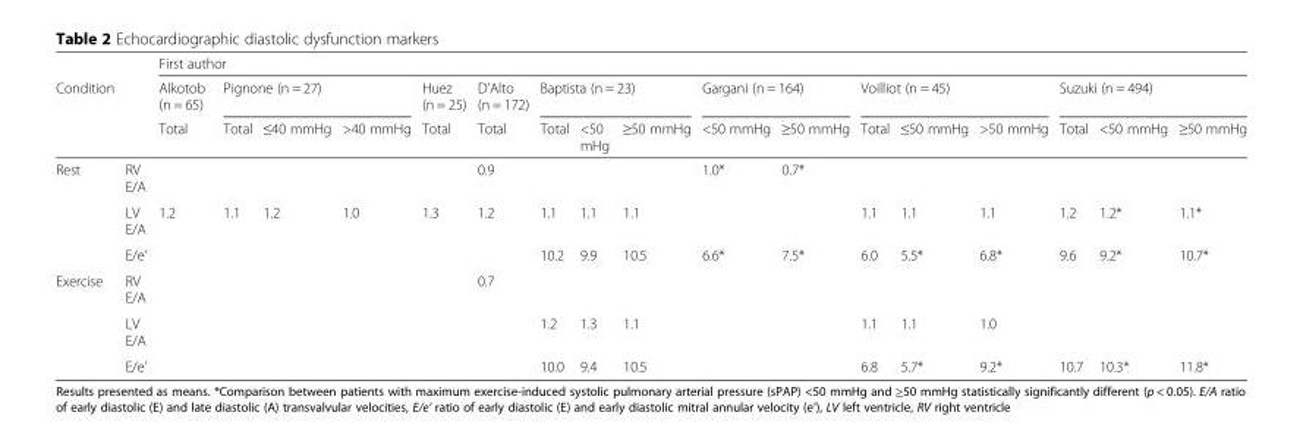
<table><thead><tr><td rowspan="3">Condition</td><td rowspan="3"></td><td colspan="17">First author</td></tr><tr><td rowspan="2">Alkotob (n = 65) Total</td><td colspan="3">Pignone (n = 27)</td><td rowspan="2">Huez (n = 25) Total</td><td rowspan="2">D’Alto (n = 172) Total</td><td colspan="3">Baptista (n = 23)</td><td colspan="2">Gargani (n = 164)</td><td colspan="3">Voilliot (n = 45)</td><td colspan="3">Suzuki (n = 494)</td></tr><tr><td>Total</td><td>≤40 mmHg</td><td>&gt;40 mmHg</td><td>Total</td><td>&lt;50 mHg</td><td>≥50 mmHg</td><td>&lt;50 mmHg</td><td>≥50 mmHg</td><td>Total</td><td>≤50 mmHg</td><td>&gt;50 mmHg</td><td>Total</td><td>&lt;50 mmHg</td><td>≥50 mmHg</td></tr></thead><tbody><tr><td rowspan="3">Rest</td><td>RV E/A</td><td></td><td></td><td></td><td></td><td></td><td>0.9</td><td></td><td></td><td></td><td>1.0*</td><td>0.7*</td><td></td><td></td><td></td><td></td><td></td><td></td></tr><tr><td>LV E/A</td><td>1.2</td><td>1.1</td><td>1.2</td><td>1.0</td><td>1.3</td><td>1.2</td><td>1.1</td><td>1.1</td><td>1.1</td><td></td><td></td><td>1.1</td><td>1.1</td><td>1.1</td><td>1.2</td><td>1.2*</td><td>1.1*</td></tr><tr><td>E/e’</td><td></td><td></td><td></td><td></td><td></td><td></td><td>10.2</td><td>9.9</td><td>10.5</td><td>6.6*</td><td>7.5*</td><td>6.0</td><td>5.5*</td><td>6.8*</td><td>9.6</td><td>9.2*</td><td>10.7*</td></tr><tr><td rowspan="3">Exercise</td><td>RV E/A</td><td></td><td></td><td></td><td></td><td></td><td>0.7</td><td></td><td></td><td></td><td></td><td></td><td></td><td></td><td></td><td></td><td></td><td></td></tr><tr><td>LV E/A</td><td></td><td></td><td></td><td></td><td></td><td></td><td>1.2</td><td>1.3</td><td>1.1</td><td></td><td></td><td>1.1</td><td>1.1</td><td>1.0</td><td></td><td></td><td></td></tr><tr><td>E/e’</td><td></td><td></td><td></td><td></td><td></td><td></td><td>10.0</td><td>9.4</td><td>10.5</td><td></td><td></td><td>6.8</td><td>5.7*</td><td>9.2*</td><td>10.7</td><td>10.3*</td><td>11.8*</td></tr></tbody></table>